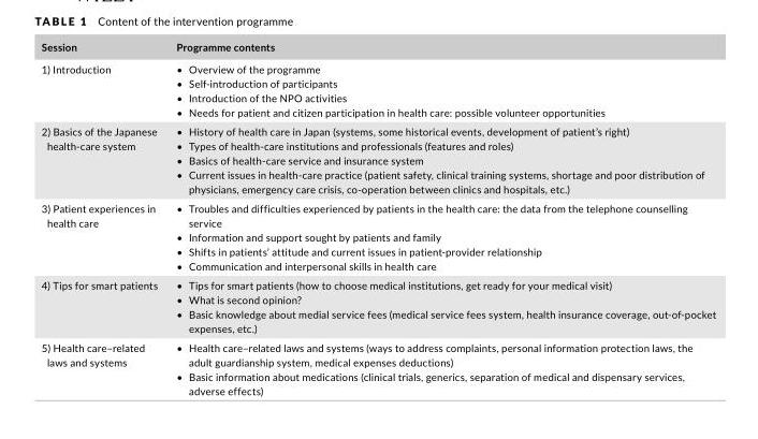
<table><thead><tr><td>Session</td><td>Programme contents</td></tr></thead><tbody><tr><td>1) Introduction</td><td>• Overview of the programme • Self-introduction of participants • Introduction of the NPO activities • Needs for patient and citizen participation in health care: possible volunteer opportunities</td></tr><tr><td>2) Basics of the Japanese health- care system</td><td>• History of health care in Japan (systems, some historical events, development of patient’s right) • Types of health-care institutions and professionals (features and roles) • Basics of health-care service and insurance system • Current issues in health-care practice (patient safety, clinical training systems, shortage and poor distribution of physicians, emergency care crisis, co-operation between clinics and hospitals, etc.)</td></tr><tr><td>3) Patient experiences in health care</td><td>• Troubles and difficulties experienced by patients in the health care: the data from the telephone counselling service • Information and support sought by patients and family • Shifts in patients’ attitude and current issues in patient-provider relationship • Communication and interpersonal skills in health care</td></tr><tr><td>4) Tips for smart patients</td><td>• Tips for smart patients (how to choose medical institutions, get ready for your medical visit) • What is second opinion? • Basic knowledge about medial service fees (medical service fees system, health insurance coverage, out-of-pocket expenses, etc.)</td></tr><tr><td>5) Health care–related laws and systems</td><td>• Health care–related laws and systems (ways to address complaints, personal information protection laws, the adult guardianship system, medical expenses deductions) • Basic information about medications (clinical trials, generics, separation of medical and dispensary services, adverse effects)</td></tr></tbody></table>